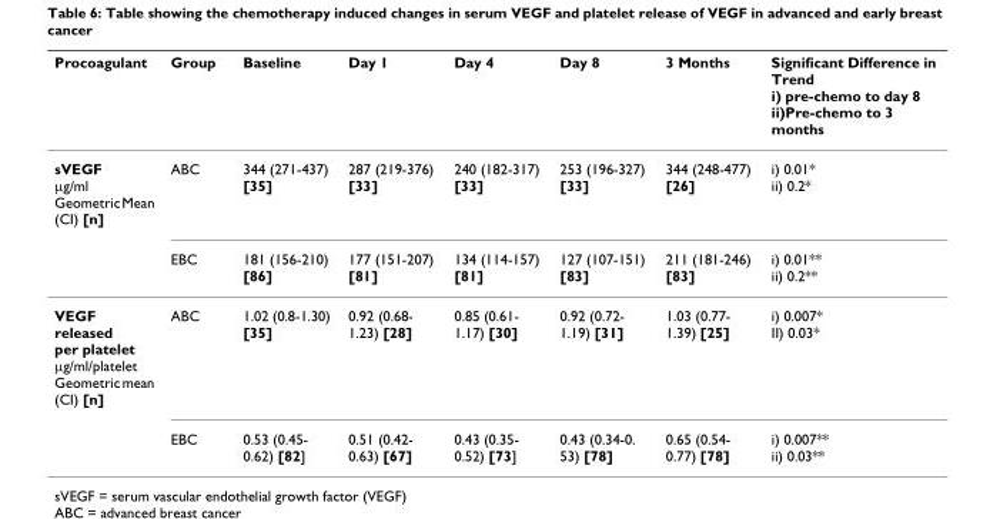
<table><thead><tr><td>Procoagulant</td><td>Group</td><td>Baseline</td><td>Day 1</td><td>Day 4</td><td>Day 8</td><td>3 Months</td><td>Significant Difference in Trend i) pre-chemo to day 8 ii)Pre-chemo to 3 months</td></tr></thead><tbody><tr><td rowspan="2">sVEGF μg/ml Geometric Mean (CI) [n]</td><td>ABC</td><td>344 (271-437) [35]</td><td>287 (219-376) [33]</td><td>240 (182-317) [33]</td><td>253 (196-327) [33]</td><td>344 (248-477) [26]</td><td>i) 0.01* ii) 0.2*</td></tr><tr><td>EBC</td><td>181 (156-210) [86]</td><td>177 (151-207) [81]</td><td>134 (114-157) [81]</td><td>127 (107-151) [83]</td><td>211 (181-246) [83]</td><td>i) 0.01** ii) 0.2**</td></tr><tr><td rowspan="2">VEGF released per platelet μg/ml/platelet Geometric mean (CI) [n]</td><td>ABC</td><td>1.02 (0.8-1.30) [35]</td><td>0.92 (0.68- 1.23) [28]</td><td>0.85 (0.61- 1.17) [30]</td><td>0.92 (0.72- 1.19) [31]</td><td>1.03 (0.77- 1.39) [25]</td><td>i) 0.007* II) 0.03*</td></tr><tr><td>EBC</td><td>0.53 (0.45- 0.62) [82]</td><td>0.51 (0.42- 0.63) [67]</td><td>0.43 (0.35- 0.52) [73]</td><td>0.43 (0.34-0. 53) [78]</td><td>0.65 (0.54- 0.77) [78]</td><td>i) 0.007** ii) 0.03**</td></tr></tbody></table>